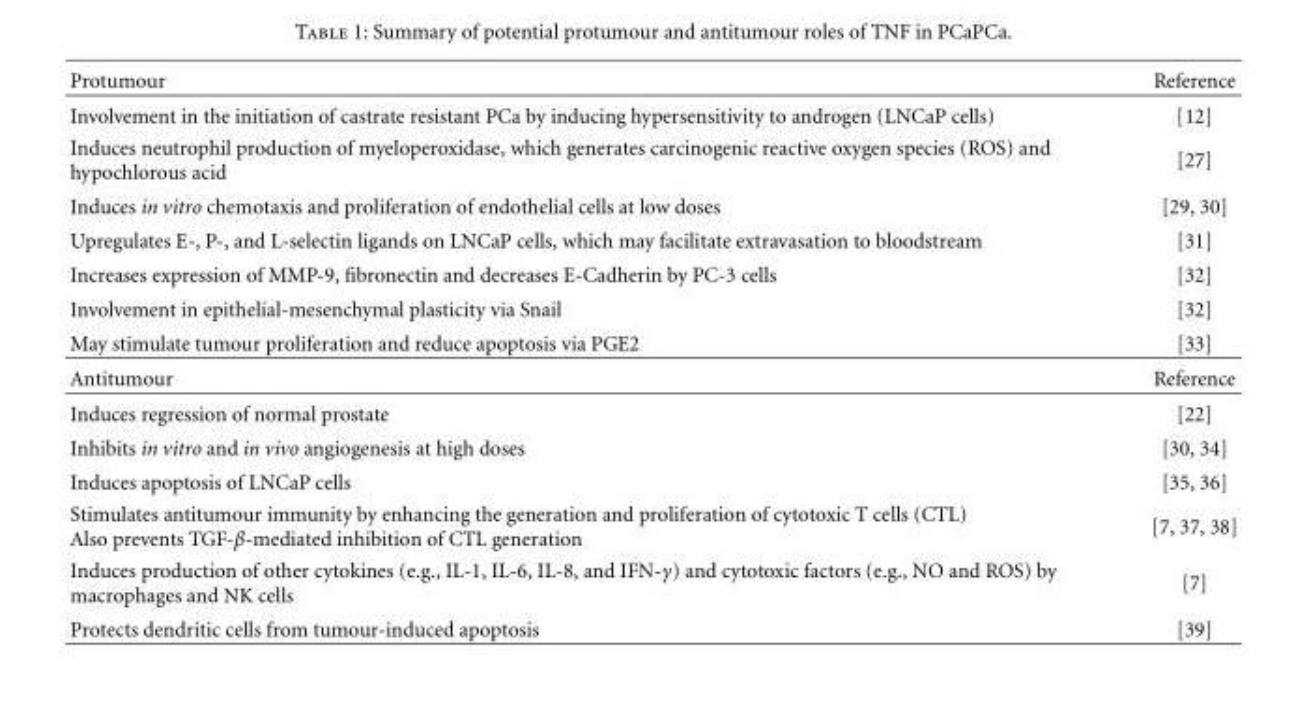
<table><thead><tr><td>Protumour</td><td>Reference</td></tr></thead><tbody><tr><td>Involvement in the initiation of castrate resistant PCa by inducing hypersensitivity to androgen (LNCaP cells)</td><td>[12]</td></tr><tr><td>Induces neutrophil production of myeloperoxidase, which generates carcinogenic reactive oxygen species (ROS) and hypochlorous acid</td><td>[27]</td></tr><tr><td>Induces in vitro chemotaxis and proliferation of endothelial cells at low doses</td><td>[29, 30]</td></tr><tr><td>Upregulates E-, P-, and L-selectin ligands on LNCaP cells, which may facilitate extravasation to bloodstream</td><td>[31]</td></tr><tr><td>Increases expression of MMP-9, fibronectin and decreases E-Cadherin by PC-3 cells</td><td>[32]</td></tr><tr><td>Involvement in epithelial-mesenchymal plasticity via Snail</td><td>[32]</td></tr><tr><td>May stimulate tumour proliferation and reduce apoptosis via PGE2</td><td>[33]</td></tr><tr><td>Antitumour</td><td>Reference</td></tr><tr><td>Induces regression of normal prostate</td><td>[22]</td></tr><tr><td>Inhibits in vitro and in vivo angiogenesis at high doses</td><td>[30, 34]</td></tr><tr><td>Induces apoptosis of LNCaP cells</td><td>[35, 36]</td></tr><tr><td>Stimulates antitumour immunity by enhancing the generation and proliferation of cytotoxic T cells (CTL) Also prevents TGF-β-mediated inhibition of CTL generation</td><td>[7, 37, 38]</td></tr><tr><td>Induces production of other cytokines (e.g., IL-1, IL-6, IL-8, and IFN-γ) and cytotoxic factors (e.g., NO and ROS) by macrophages and NK cells</td><td>[7]</td></tr><tr><td>Protects dendritic cells from tumour-induced apoptosis</td><td>[39]</td></tr></tbody></table>